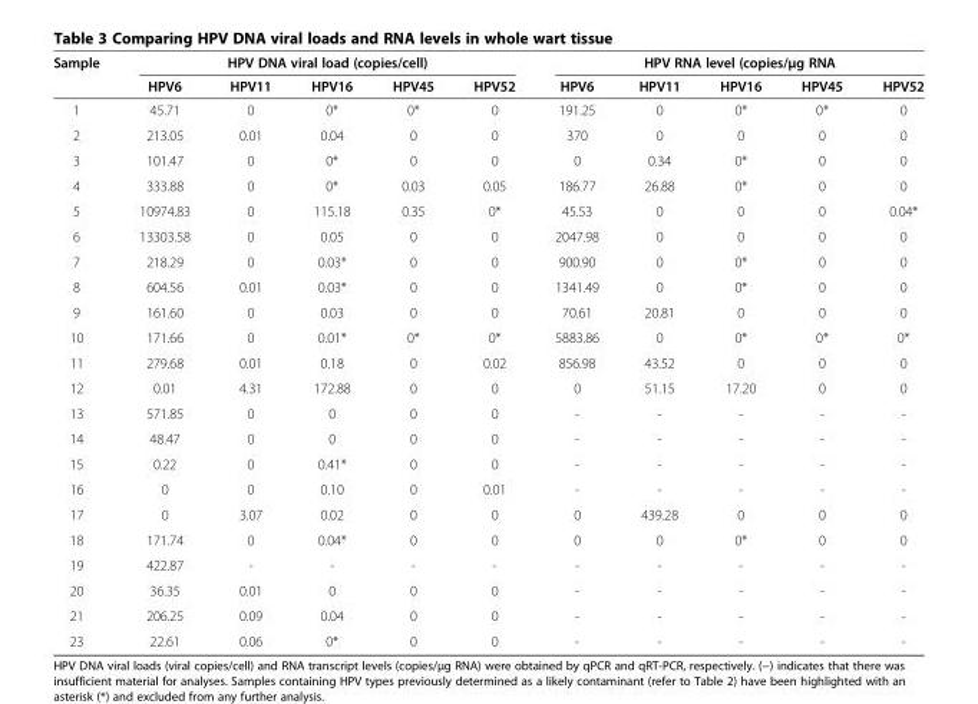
<table><thead><tr><td rowspan="2">Sample</td><td colspan="5">HPV DNA viral load (copies/cell)</td><td colspan="5">HPV RNA level (copies/μg RNA</td></tr><tr><td>HPV6</td><td>HPV11</td><td>HPV16</td><td>HPV45</td><td>HPV52</td><td>HPV6</td><td>HPV11</td><td>HPV16</td><td>HPV45</td><td>HPV52</td></tr></thead><tbody><tr><td>1</td><td>45.71</td><td>0</td><td>0*</td><td>0*</td><td>0</td><td>191.25</td><td>0</td><td>0*</td><td>0*</td><td>0</td></tr><tr><td>2</td><td>213.05</td><td>0.01</td><td>0.04</td><td>0</td><td>0</td><td>370</td><td>0</td><td>0</td><td>0</td><td>0</td></tr><tr><td>3</td><td>101.47</td><td>0</td><td>0*</td><td>0</td><td>0</td><td>0</td><td>0.34</td><td>0*</td><td>0</td><td>0</td></tr><tr><td>4</td><td>333.88</td><td>0</td><td>0*</td><td>0.03</td><td>0.05</td><td>186.77</td><td>26.88</td><td>0*</td><td>0</td><td>0</td></tr><tr><td>5</td><td>10974.83</td><td>0</td><td>115.18</td><td>0.35</td><td>0*</td><td>45.53</td><td>0</td><td>0</td><td>0</td><td>0.04*</td></tr><tr><td>6</td><td>13303.58</td><td>0</td><td>0.05</td><td>0</td><td>0</td><td>2047.98</td><td>0</td><td>0</td><td>0</td><td>0</td></tr><tr><td>7</td><td>218.29</td><td>0</td><td>0.03*</td><td>0</td><td>0</td><td>900.90</td><td>0</td><td>0*</td><td>0</td><td>0</td></tr><tr><td>8</td><td>604.56</td><td>0.01</td><td>0.03*</td><td>0</td><td>0</td><td>1341.49</td><td>0</td><td>0*</td><td>0</td><td>0</td></tr><tr><td>9</td><td>161.60</td><td>0</td><td>0.03</td><td>0</td><td>0</td><td>70.61</td><td>20.81</td><td>0</td><td>0</td><td>0</td></tr><tr><td>10</td><td>171.66</td><td>0</td><td>0.01*</td><td>0*</td><td>0*</td><td>5883.86</td><td>0</td><td>0*</td><td>0*</td><td>0*</td></tr><tr><td>11</td><td>279.68</td><td>0.01</td><td>0.18</td><td>0</td><td>0.02</td><td>856.98</td><td>43.52</td><td>0</td><td>0</td><td>0</td></tr><tr><td>12</td><td>0.01</td><td>4.31</td><td>172.88</td><td>0</td><td>0</td><td>0</td><td>51.15</td><td>17.20</td><td>0</td><td>0</td></tr><tr><td>13</td><td>571.85</td><td>0</td><td>0</td><td>0</td><td>0</td><td>-</td><td>-</td><td>-</td><td>-</td><td>-</td></tr><tr><td>14</td><td>48.47</td><td>0</td><td>0</td><td>0</td><td>0</td><td>-</td><td>-</td><td>-</td><td>-</td><td>-</td></tr><tr><td>15</td><td>0.22</td><td>0</td><td>0.41*</td><td>0</td><td>0</td><td>-</td><td>-</td><td>-</td><td>-</td><td>-</td></tr><tr><td>16</td><td>0</td><td>0</td><td>0.10</td><td>0</td><td>0.01</td><td>-</td><td>-</td><td>-</td><td>-</td><td>-</td></tr><tr><td>17</td><td>0</td><td>3.07</td><td>0.02</td><td>0</td><td>0</td><td>0</td><td>439.28</td><td>0</td><td>0</td><td>0</td></tr><tr><td>18</td><td>171.74</td><td>0</td><td>0.04*</td><td>0</td><td>0</td><td>0</td><td>0</td><td>0*</td><td>0</td><td>0</td></tr><tr><td>19</td><td>422.87</td><td>-</td><td>-</td><td>-</td><td>-</td><td>-</td><td>-</td><td>-</td><td>-</td><td>-</td></tr><tr><td>20</td><td>36.35</td><td>0.01</td><td>0</td><td>0</td><td>0</td><td>-</td><td>-</td><td>-</td><td>-</td><td>-</td></tr><tr><td>21</td><td>206.25</td><td>0.09</td><td>0.04</td><td>0</td><td>0</td><td>-</td><td>-</td><td>-</td><td>-</td><td>-</td></tr><tr><td>23</td><td>22.61</td><td>0.06</td><td>0*</td><td>0</td><td>0</td><td>-</td><td>-</td><td>-</td><td>-</td><td>-</td></tr></tbody></table>